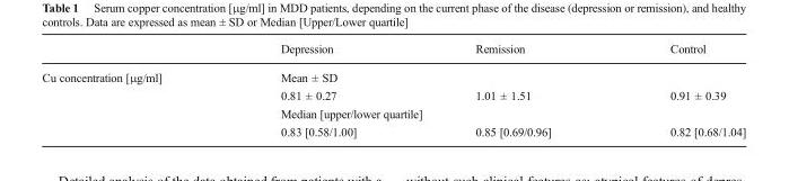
<table><thead><tr><td></td><td>Depression</td><td>Remission</td><td>Control</td></tr></thead><tbody><tr><td rowspan="4">Cu concentration [μg/ml]</td><td colspan="3">Mean ± SD</td></tr><tr><td>0.81 ± 0.27</td><td>1.01 ± 1.51</td><td>0.91 ± 0.39</td></tr><tr><td colspan="3">Median [upper/lower quartile]</td></tr><tr><td>0.83 [0.58/1.00]</td><td>0.85 [0.69/0.96]</td><td>0.82 [0.68/1.04]</td></tr></tbody></table>